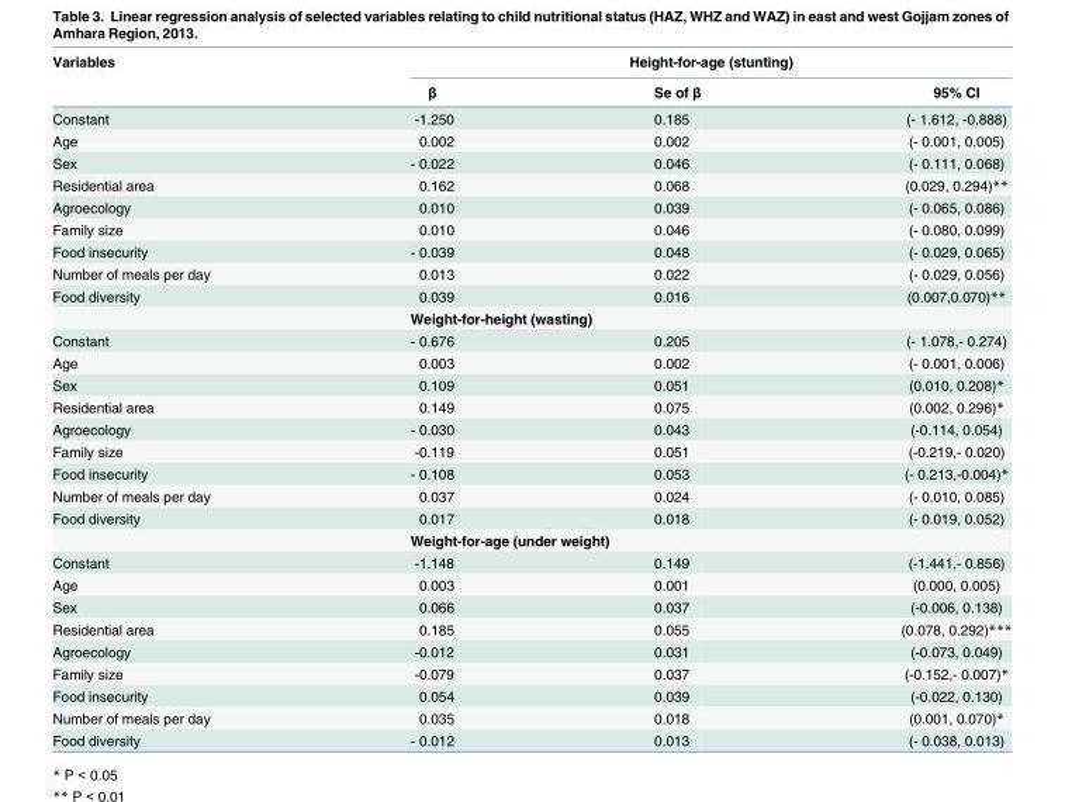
<table><thead><tr><td rowspan="2">Variables</td><td colspan="3">Height-for-age (stunting)</td></tr><tr><td>β</td><td>Se of β</td><td>95% CI</td></tr></thead><tbody><tr><td>Constant</td><td>-1.250</td><td>0.185</td><td>(- 1.612, -0.888)</td></tr><tr><td>Age</td><td>0.002</td><td>0.002</td><td>(- 0.001, 0.005)</td></tr><tr><td>Sex</td><td>- 0.022</td><td>0.046</td><td>(- 0.111, 0.068)</td></tr><tr><td>Residential area</td><td>0.162</td><td>0.068</td><td>(0.029, 0.294)**</td></tr><tr><td>Agroecology</td><td>0.010</td><td>0.039</td><td>(- 0.065, 0.086)</td></tr><tr><td>Family size</td><td>0.010</td><td>0.046</td><td>(- 0.080, 0.099)</td></tr><tr><td>Food insecurity</td><td>- 0.039</td><td>0.048</td><td>(- 0.029, 0.065)</td></tr><tr><td>Number of meals per day</td><td>0.013</td><td>0.022</td><td>(- 0.029, 0.056)</td></tr><tr><td rowspan="2">Food diversity</td><td>0.039</td><td>0.016</td><td>(0.007,0.070)**</td></tr><tr><td colspan="3">Weight-for-height (wasting)</td></tr><tr><td>Constant</td><td>- 0.676</td><td>0.205</td><td>(- 1.078,- 0.274)</td></tr><tr><td>Age</td><td>0.003</td><td>0.002</td><td>(- 0.001, 0.006)</td></tr><tr><td>Sex</td><td>0.109</td><td>0.051</td><td>(0.010, 0.208)*</td></tr><tr><td>Residential area</td><td>0.149</td><td>0.075</td><td>(0.002, 0.296)*</td></tr><tr><td>Agroecology</td><td>- 0.030</td><td>0.043</td><td>(-0.114, 0.054)</td></tr><tr><td>Family size</td><td>-0.119</td><td>0.051</td><td>(-0.219,- 0.020)</td></tr><tr><td>Food insecurity</td><td>- 0.108</td><td>0.053</td><td>(- 0.213,-0.004)*</td></tr><tr><td>Number of meals per day</td><td>0.037</td><td>0.024</td><td>(- 0.010, 0.085)</td></tr><tr><td rowspan="2">Food diversity</td><td>0.017</td><td>0.018</td><td>(- 0.019, 0.052)</td></tr><tr><td colspan="3">Weight-for-age (under weight)</td></tr><tr><td>Constant</td><td>-1.148</td><td>0.149</td><td>(-1.441,- 0.856)</td></tr><tr><td>Age</td><td>0.003</td><td>0.001</td><td>(0.000, 0.005)</td></tr><tr><td>Sex</td><td>0.066</td><td>0.037</td><td>(-0.006, 0.138)</td></tr><tr><td>Residential area</td><td>0.185</td><td>0.055</td><td>(0.078, 0.292)***</td></tr><tr><td>Agroecology</td><td>-0.012</td><td>0.031</td><td>(-0.073, 0.049)</td></tr><tr><td>Family size</td><td>-0.079</td><td>0.037</td><td>(-0.152,- 0.007)*</td></tr><tr><td>Food insecurity</td><td>0.054</td><td>0.039</td><td>(-0.022, 0.130)</td></tr><tr><td>Number of meals per day</td><td>0.035</td><td>0.018</td><td>(0.001, 0.070)*</td></tr><tr><td>Food diversity</td><td>- 0.012</td><td>0.013</td><td>(- 0.038, 0.013)</td></tr></tbody></table>